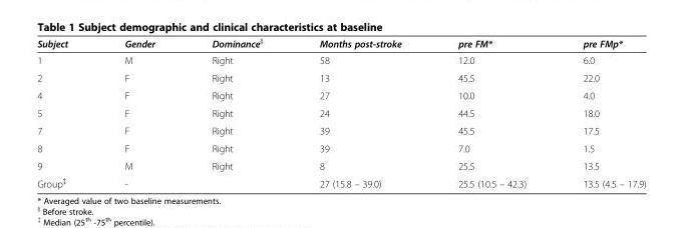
<table><thead><tr><td>Subject</td><td>Gender</td><td>Dominance<sup>§</sup></td><td>Months post-stroke</td><td>pre FM*</td><td>pre FMp*</td></tr></thead><tbody><tr><td>1</td><td>M</td><td>Right</td><td>58</td><td>12.0</td><td>6.0</td></tr><tr><td>2</td><td>F</td><td>Right</td><td>13</td><td>45.5</td><td>22.0</td></tr><tr><td>4</td><td>F</td><td>Right</td><td>27</td><td>10.0</td><td>4.0</td></tr><tr><td>5</td><td>F</td><td>Right</td><td>24</td><td>44.5</td><td>18.0</td></tr><tr><td>7</td><td>F</td><td>Right</td><td>39</td><td>45.5</td><td>17.5</td></tr><tr><td>8</td><td>F</td><td>Right</td><td>39</td><td>7.0</td><td>1.5</td></tr><tr><td>9</td><td>M</td><td>Right</td><td>8</td><td>25.5</td><td>13.5</td></tr><tr><td>Group<sup>‡</sup></td><td>-</td><td></td><td>27 (15.8 – 39.0)</td><td>25.5 (10.5 – 42.3)</td><td>13.5 (4.5 – 17.9)</td></tr></tbody></table>